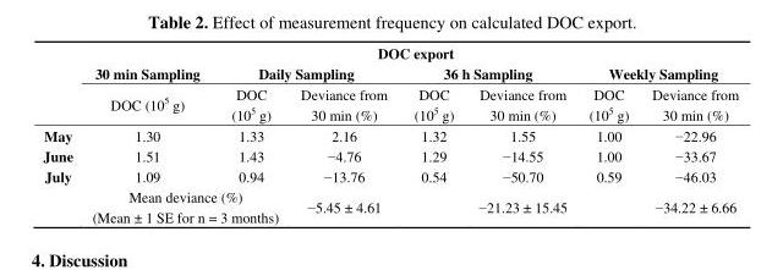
<table><thead><tr><td rowspan="3"></td><td colspan="7">DOC export</td></tr><tr><td rowspan="2">30 min Sampling DOC (10<sup>5</sup> g)</td><td colspan="2">Daily Sampling</td><td colspan="2">36 h Sampling</td><td colspan="2">Weekly Sampling</td></tr><tr><td>DOC (10<sup>5</sup> g)</td><td>Deviance from 30 min (%)</td><td>DOC (10<sup>5</sup> g)</td><td>Deviance from 30 min (%)</td><td>DOC (10<sup>5</sup> g)</td><td>Deviance from 30 min (%)</td></tr></thead><tbody><tr><td>May</td><td>1.30</td><td>1.33</td><td>2.16</td><td>1.32</td><td>1.55</td><td>1.00</td><td>−22.96</td></tr><tr><td>June</td><td>1.51</td><td>1.43</td><td>−4.76</td><td>1.29</td><td>−14.55</td><td>1.00</td><td>−33.67</td></tr><tr><td rowspan="2">July</td><td>1.09</td><td>0.94</td><td>−13.76</td><td>0.54</td><td>−50.70</td><td>0.59</td><td>−46.03</td></tr><tr><td colspan="2">Mean deviance (%) (Mean ± 1 SE for n = 3 months)</td><td>−5.45 ± 4.61</td><td></td><td>−21.23 ± 15.45</td><td></td><td>−34.22 ± 6.66</td></tr></tbody></table>